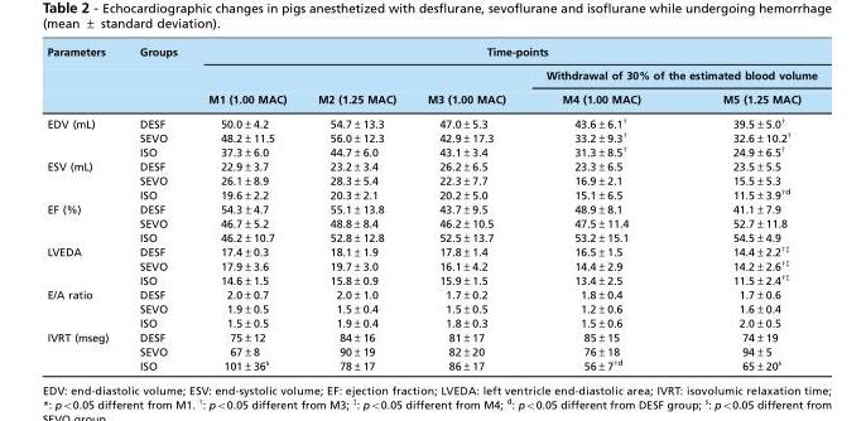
<table><thead><tr><td rowspan="3">Parameters</td><td rowspan="3">Groups</td><td colspan="5">Time-points</td></tr><tr><td rowspan="2">M1 (1.00 MAC)</td><td rowspan="2">M2 (1.25 MAC)</td><td rowspan="2">M3 (1.00 MAC)</td><td colspan="2">Withdrawal of 30% of the estimated blood volume</td></tr><tr><td>M4 (1.00 MAC)</td><td>M5 (1.25 MAC)</td></tr></thead><tbody><tr><td rowspan="3">EDV (mL)</td><td>DESF</td><td>50.0±4.2</td><td>54.7±13.3</td><td>47.0±5.3</td><td>43.6±6.1†</td><td>39.5±5.0†</td></tr><tr><td>SEVO</td><td>48.2±11.5</td><td>56.0±12.3</td><td>42.9±17.3</td><td>33.2±9.3†</td><td>32.6±10.2†</td></tr><tr><td>ISO</td><td>37.3±6.0</td><td>44.7±6.0</td><td>43.1±3.4</td><td>31.3±8.5†</td><td>24.9±6.5†</td></tr><tr><td rowspan="3">ESV (mL)</td><td>DESF</td><td>22.9±3.7</td><td>23.2±3.4</td><td>26.2±6.5</td><td>23.3±6.5</td><td>23.5±5.5</td></tr><tr><td>SEVO</td><td>26.1±8.9</td><td>28.3±5.4</td><td>22.3±7.7</td><td>16.9±2.1</td><td>15.5±5.3</td></tr><tr><td>ISO</td><td>19.6±2.2</td><td>20.3±2.1</td><td>20.2±5.0</td><td>15.1±6.5</td><td>11.5±3.9†d</td></tr><tr><td rowspan="3">EF (%)</td><td>DESF</td><td>54.3±4.7</td><td>55.1±13.8</td><td>43.7±9.5</td><td>48.9±8.1</td><td>41.1±7.9</td></tr><tr><td>SEVO</td><td>46.7±5.2</td><td>48.8±8.4</td><td>46.2±10.5</td><td>47.5±11.4</td><td>52.7±11.8</td></tr><tr><td>ISO</td><td>46.2±10.7</td><td>52.8±12.8</td><td>52.5±13.7</td><td>53.2±15.1</td><td>54.5±4.9</td></tr><tr><td rowspan="3">LVEDA</td><td>DESF</td><td>17.4±0.3</td><td>18.1±1.9</td><td>17.8±1.4</td><td>16.5±1.5</td><td>14.4±2.2w=</td></tr><tr><td>SEVO</td><td>17.9±3.6</td><td>19.7±3.0</td><td>16.1±4.2</td><td>14.4±2.9</td><td>14.2±2.6w=</td></tr><tr><td>ISO</td><td>14.6±1.5</td><td>15.8±0.9</td><td>15.9±1.5</td><td>13.4±2.5</td><td>11.5±2.4w=</td></tr><tr><td rowspan="3">E/A ratio</td><td>DESF</td><td>2.0±0.7</td><td>2.0±1.0</td><td>1.7±0.2</td><td>1.8±0.4</td><td>1.7±0.6</td></tr><tr><td>SEVO</td><td>1.9±0.5</td><td>1.5±0.4</td><td>1.5±0.5</td><td>1.2±0.6</td><td>1.6±0.4</td></tr><tr><td>ISO</td><td>1.5±0.5</td><td>1.9±0.4</td><td>1.8±0.3</td><td>1.5±0.6</td><td>2.0±0.5</td></tr><tr><td rowspan="3">IVRT (mseg)</td><td>DESF</td><td>75±12</td><td>84±16</td><td>81±17</td><td>85±15</td><td>74±19</td></tr><tr><td>SEVO</td><td>67±8</td><td>90±19</td><td>82±20</td><td>76±18</td><td>94±5</td></tr><tr><td>ISO</td><td>101±36s</td><td>78±17</td><td>86±17</td><td>56±7†d</td><td>65±20s</td></tr></tbody></table>